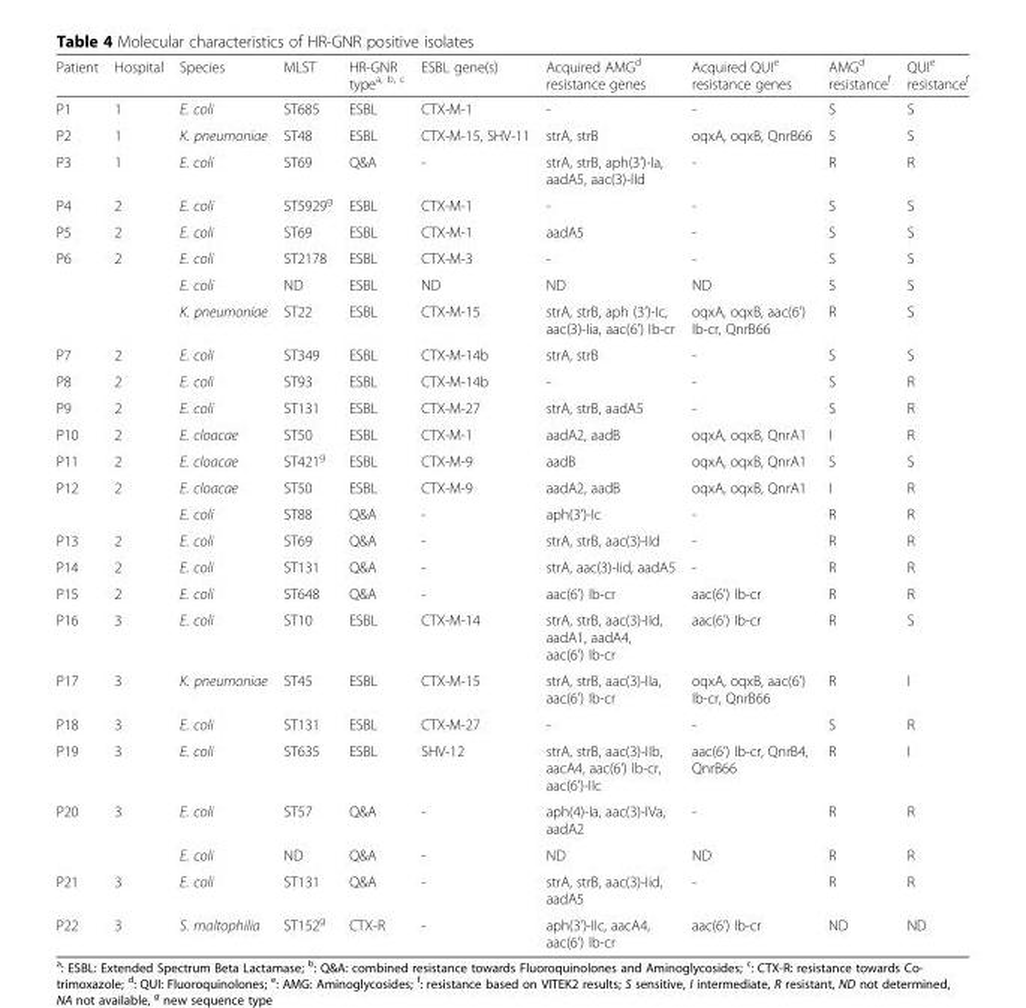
<table><thead><tr><td>Patient</td><td>Hospital</td><td>Species</td><td>MLST</td><td>HR-GNR type<sup>a, b, c</sup></td><td>ESBL gene(s)</td><td>Acquired AMG<sup>d</sup> resistance genes</td><td>Acquired QUI<sup>e</sup> resistance genes</td><td>AMG<sup>d</sup> resistance<sup>f</sup></td><td>QUI<sup>e</sup> resistance<sup>f</sup></td></tr></thead><tbody><tr><td>P1</td><td>1</td><td>E. coli</td><td>ST685</td><td>ESBL</td><td>CTX-M-1</td><td>-</td><td>-</td><td>S</td><td>S</td></tr><tr><td>P2</td><td>1</td><td>K. pneumoniae</td><td>ST48</td><td>ESBL</td><td>CTX-M-15, SHV-11</td><td>strA, strB</td><td>oqxA, oqxB, QnrB66</td><td>S</td><td>S</td></tr><tr><td>P3</td><td>1</td><td>E. coli</td><td>ST69</td><td>Q&amp;A</td><td>-</td><td>strA, strB, aph(3’)-Ia, aadA5, aac(3)-IId</td><td>-</td><td>R</td><td>R</td></tr><tr><td>P4</td><td>2</td><td>E. coli</td><td>ST5929<sup>g</sup></td><td>ESBL</td><td>CTX-M-1</td><td>-</td><td>-</td><td>S</td><td>S</td></tr><tr><td>P5</td><td>2</td><td>E. coli</td><td>ST69</td><td>ESBL</td><td>CTX-M-1</td><td>aadA5</td><td>-</td><td>S</td><td>S</td></tr><tr><td rowspan="3">P6</td><td>2</td><td>E. coli</td><td>ST2178</td><td>ESBL</td><td>CTX-M-3</td><td>-</td><td>-</td><td>S</td><td>S</td></tr><tr><td></td><td>E. coli</td><td>ND</td><td>ESBL</td><td>ND</td><td>ND</td><td>ND</td><td>S</td><td>S</td></tr><tr><td></td><td>K. pneumoniae</td><td>ST22</td><td>ESBL</td><td>CTX-M-15</td><td>strA, strB, aph (3’)-Ic, aac(3)-Iia, aac(6’) Ib-cr</td><td>oqxA, oqxB, aac(6’) Ib-cr, QnrB66</td><td>R</td><td>S</td></tr><tr><td>P7</td><td>2</td><td>E. coli</td><td>ST349</td><td>ESBL</td><td>CTX-M-14b</td><td>strA, strB</td><td>-</td><td>S</td><td>S</td></tr><tr><td>P8</td><td>2</td><td>E. coli</td><td>ST93</td><td>ESBL</td><td>CTX-M-14b</td><td>-</td><td>-</td><td>S</td><td>R</td></tr><tr><td>P9</td><td>2</td><td>E. coli</td><td>ST131</td><td>ESBL</td><td>CTX-M-27</td><td>strA, strB, aadA5</td><td>-</td><td>S</td><td>R</td></tr><tr><td>P10</td><td>2</td><td>E. cloacae</td><td>ST50</td><td>ESBL</td><td>CTX-M-1</td><td>aadA2, aadB</td><td>oqxA, oqxB, QnrA1</td><td>I</td><td>R</td></tr><tr><td>P11</td><td>2</td><td>E. cloacae</td><td>ST421<sup>g</sup></td><td>ESBL</td><td>CTX-M-9</td><td>aadB</td><td>oqxA, oqxB, QnrA1</td><td>S</td><td>S</td></tr><tr><td rowspan="2">P12</td><td>2</td><td>E. cloacae</td><td>ST50</td><td>ESBL</td><td>CTX-M-9</td><td>aadA2, aadB</td><td>oqxA, oqxB, QnrA1</td><td>I</td><td>R</td></tr><tr><td></td><td>E. coli</td><td>ST88</td><td>Q&amp;A</td><td>-</td><td>aph(3’)-Ic</td><td>-</td><td>R</td><td>R</td></tr><tr><td>P13</td><td>2</td><td>E. coli</td><td>ST69</td><td>Q&amp;A</td><td>-</td><td>strA, strB, aac(3)-IId</td><td>-</td><td>R</td><td>R</td></tr><tr><td>P14</td><td>2</td><td>E. coli</td><td>ST131</td><td>Q&amp;A</td><td>-</td><td>strA, aac(3)-Iid, aadA5</td><td>-</td><td>R</td><td>R</td></tr><tr><td>P15</td><td>2</td><td>E. coli</td><td>ST648</td><td>Q&amp;A</td><td>-</td><td>aac(6’) Ib-cr</td><td>aac(6’) Ib-cr</td><td>R</td><td>R</td></tr><tr><td>P16</td><td>3</td><td>E. coli</td><td>ST10</td><td>ESBL</td><td>CTX-M-14</td><td>strA, strB, aac(3)-IId, aadA1, aadA4, aac(6’) Ib-cr</td><td>aac(6’) Ib-cr</td><td>R</td><td>S</td></tr><tr><td>P17</td><td>3</td><td>K. pneumoniae</td><td>ST45</td><td>ESBL</td><td>CTX-M-15</td><td>strA, strB, aac(3)-IIa, aac(6’) Ib-cr</td><td>oqxA, oqxB, aac(6’) Ib-cr, QnrB66</td><td>R</td><td>I</td></tr><tr><td>P18</td><td>3</td><td>E. coli</td><td>ST131</td><td>ESBL</td><td>CTX-M-27</td><td>-</td><td>-</td><td>S</td><td>R</td></tr><tr><td>P19</td><td>3</td><td>E. coli</td><td>ST635</td><td>ESBL</td><td>SHV-12</td><td>strA, strB, aac(3)-IIb, aacA4, aac(6’) Ib-cr, aac(6’)-IIc</td><td>aac(6’) Ib-cr, QnrB4, QnrB66</td><td>R</td><td>I</td></tr><tr><td rowspan="2">P20</td><td>3</td><td>E. coli</td><td>ST57</td><td>Q&amp;A</td><td>-</td><td>aph(4)-Ia, aac(3)-IVa, aadA2</td><td>-</td><td>R</td><td>R</td></tr><tr><td></td><td>E. coli</td><td>ND</td><td>Q&amp;A</td><td>-</td><td>ND</td><td>ND</td><td>R</td><td>R</td></tr><tr><td>P21</td><td>3</td><td>E. coli</td><td>ST131</td><td>Q&amp;A</td><td>-</td><td>strA, strB, aac(3)-Iid, aadA5</td><td>-</td><td>R</td><td>R</td></tr><tr><td>P22</td><td>3</td><td>S. maltophilia</td><td>ST152<sup>g</sup></td><td>CTX-R</td><td>-</td><td>aph(3’)-IIc, aacA4, aac(6’) Ib-cr</td><td>aac(6’) Ib-cr</td><td>ND</td><td>ND</td></tr></tbody></table>